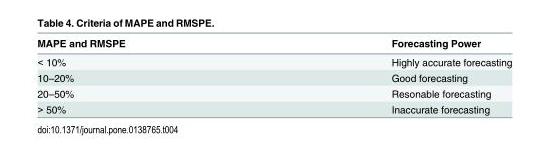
<table><thead><tr><td>MAPE and RMSPE</td><td>Forecasting Power</td></tr></thead><tbody><tr><td>&lt; 10%</td><td>Highly accurate forecasting</td></tr><tr><td>10–20%</td><td>Good forecasting</td></tr><tr><td>20–50%</td><td>Resonable forecasting</td></tr><tr><td>&gt; 50%</td><td>Inaccurate forecasting</td></tr></tbody></table>